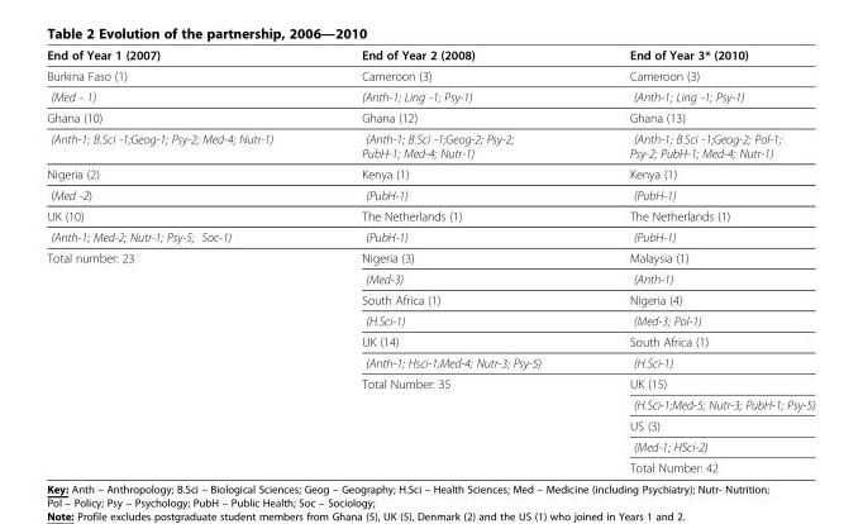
<table><thead><tr><td>End of Year 1 (2007)</td><td>End of Year 2 (2008)</td><td>End of Year 3* (2010)</td></tr></thead><tbody><tr><td>Burkina Faso (1)</td><td>Cameroon (3)</td><td>Cameroon (3)</td></tr><tr><td>(Med - 1)</td><td>(Anth-1; Ling -1; Psy-1)</td><td>(Anth-1; Ling -1; Psy-1)</td></tr><tr><td>Ghana (10)</td><td>Ghana (12)</td><td>Ghana (13)</td></tr><tr><td>(Anth-1; B.Sci -1;Geog-1; Psy-2; Med-4; Nutr-1)</td><td>(Anth-1; B.Sci -1;Geog-2; Psy-2; PubH-1; Med-4; Nutr-1)</td><td>(Anth-1; B.Sci -1;Geog-2; Pol-1; Psy-2; PubH-1; Med-4; Nutr-1)</td></tr><tr><td>Nigeria (2)</td><td>Kenya (1)</td><td>Kenya (1)</td></tr><tr><td>(Med -2)</td><td>(PubH-1)</td><td>(PubH-1)</td></tr><tr><td>UK (10)</td><td>The Netherlands (1)</td><td>The Netherlands (1)</td></tr><tr><td>(Anth-1; Med-2; Nutr-1; Psy-5; Soc-1)</td><td>(PubH-1)</td><td>(PubH-1)</td></tr><tr><td rowspan="11">Total number: 23</td><td>Nigeria (3)</td><td>Malaysia (1)</td></tr><tr><td>(Med-3)</td><td>(Anth-1)</td></tr><tr><td>South Africa (1)</td><td>Nigeria (4)</td></tr><tr><td>(H.Sci-1)</td><td>(Med-3; Pol-1)</td></tr><tr><td>UK (14)</td><td>South Africa (1)</td></tr><tr><td>(Anth-1; Hsci-1;Med-4; Nutr-3; Psy-5)</td><td>(H.Sci-1)</td></tr><tr><td>Total Number: 35</td><td>UK (15)</td></tr><tr><td></td><td>(H.Sci-1;Med-5; Nutr-3; PubH-1; Psy-5)</td></tr><tr><td></td><td>US (3)</td></tr><tr><td></td><td>(Med-1; HSci-2)</td></tr><tr><td></td><td>Total Number: 42</td></tr></tbody></table>